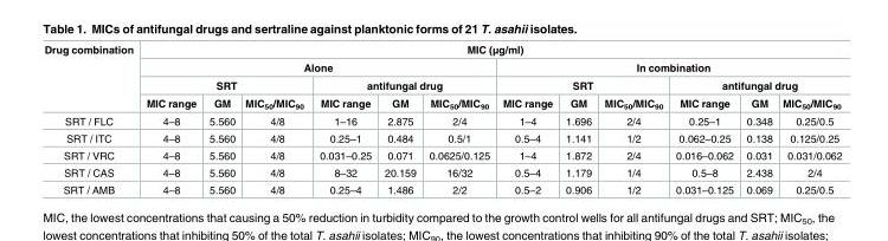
<table><thead><tr><td rowspan="4">Drug combination</td><td colspan="12">MIC (μg/ml)</td></tr><tr><td colspan="6">Alone</td><td colspan="6">In combination</td></tr><tr><td colspan="3">SRT</td><td colspan="3">antifungal drug</td><td colspan="3">SRT</td><td colspan="3">antifungal drug</td></tr><tr><td>MIC range</td><td>GM</td><td>MIC<sub>50</sub>/MIC<sub>90</sub></td><td>MIC range</td><td>GM</td><td>MIC<sub>50</sub>/MIC<sub>90</sub></td><td>MIC range</td><td>GM</td><td>MIC<sub>50</sub>/MIC<sub>90</sub></td><td>MIC range</td><td>GM</td><td>MIC<sub>50</sub>/MIC<sub>90</sub></td></tr></thead><tbody><tr><td>SRT / FLC</td><td>4–8</td><td>5.560</td><td>4/8</td><td>1–16</td><td>2.875</td><td>2/4</td><td>1–4</td><td>1.696</td><td>2/4</td><td>0.25–1</td><td>0.348</td><td>0.25/0.5</td></tr><tr><td>SRT / ITC</td><td>4–8</td><td>5.560</td><td>4/8</td><td>0.25–1</td><td>0.484</td><td>0.5/1</td><td>0.5–4</td><td>1.141</td><td>1/2</td><td>0.062–0.25</td><td>0.138</td><td>0.125/0.25</td></tr><tr><td>SRT / VRC</td><td>4–8</td><td>5.560</td><td>4/8</td><td>0.031–0.25</td><td>0.071</td><td>0.0625/0.125</td><td>1–4</td><td>1.872</td><td>2/4</td><td>0.016–0.062</td><td>0.031</td><td>0.031/0.062</td></tr><tr><td>SRT / CAS</td><td>4–8</td><td>5.560</td><td>4/8</td><td>8–32</td><td>20.159</td><td>16/32</td><td>0.5–4</td><td>1.179</td><td>1/4</td><td>0.5–8</td><td>2.438</td><td>2/4</td></tr><tr><td>SRT / AMB</td><td>4–8</td><td>5.560</td><td>4/8</td><td>0.25–4</td><td>1.486</td><td>2/2</td><td>0.5–2</td><td>0.906</td><td>1/2</td><td>0.031–0.125</td><td>0.069</td><td>0.25/0.5</td></tr></tbody></table>